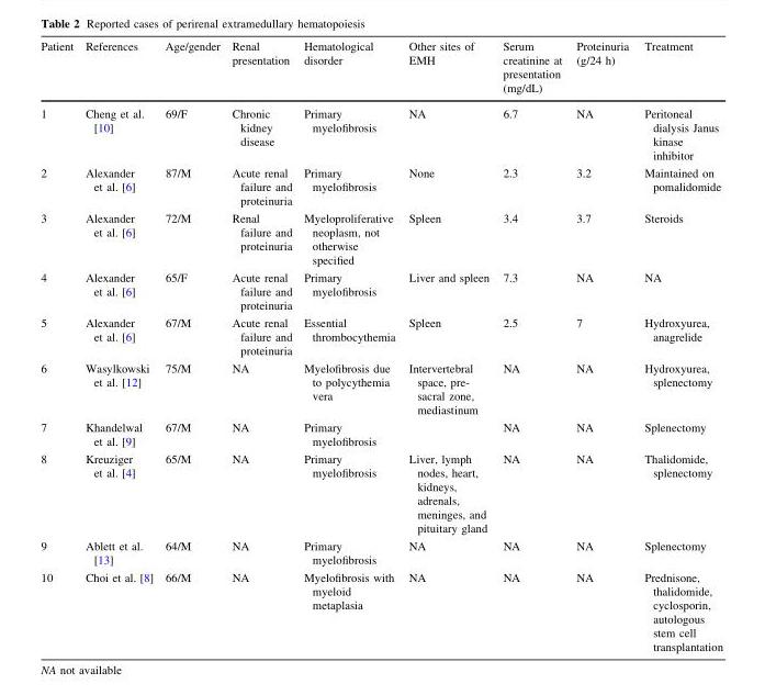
<table><thead><tr><td>Patient</td><td>References</td><td>Age/gender</td><td>Renal presentation</td><td>Hematological disorder</td><td>Other sites of EMH</td><td>Serum creatinine at presentation (mg/dL)</td><td>Proteinuria (g/24 h)</td><td>Treatment</td></tr></thead><tbody><tr><td>1</td><td>Cheng et al. [10]</td><td>69/F</td><td>Chronic kidney disease</td><td>Primary myelofibrosis</td><td>NA</td><td>6.7</td><td>NA</td><td>Peritoneal dialysis Janus kinase inhibitor</td></tr><tr><td>2</td><td>Alexander et al. [6]</td><td>87/M</td><td>Acute renal failure and proteinuria</td><td>Primary myelofibrosis</td><td>None</td><td>2.3</td><td>3.2</td><td>Maintained on pomalidomide</td></tr><tr><td>3</td><td>Alexander et al. [6]</td><td>72/M</td><td>Renal failure and proteinuria</td><td>Myeloproliferative neoplasm, not otherwise specified</td><td>Spleen</td><td>3.4</td><td>3.7</td><td>Steroids</td></tr><tr><td>4</td><td>Alexander et al. [6]</td><td>65/F</td><td>Acute renal failure and proteinuria</td><td>Primary myelofibrosis</td><td>Liver and spleen</td><td>7.3</td><td>NA</td><td>NA</td></tr><tr><td>5</td><td>Alexander et al. [6]</td><td>67/M</td><td>Acute renal failure and proteinuria</td><td>Essential thrombocythemia</td><td>Spleen</td><td>2.5</td><td>7</td><td>Hydroxyurea, anagrelide</td></tr><tr><td>6</td><td>Wasylkowski et al. [12]</td><td>75/M</td><td>NA</td><td>Myelofibrosis due to polycythemia vera</td><td>Intervertebral space, pre- sacral zone, mediastinum</td><td>NA</td><td>NA</td><td>Hydroxyurea, splenectomy</td></tr><tr><td>7</td><td>Khandelwal et al. [9]</td><td>67/M</td><td>NA</td><td>Primary myelofibrosis</td><td></td><td>NA</td><td>NA</td><td>Splenectomy</td></tr><tr><td>8</td><td>Kreuziger et al. [4]</td><td>65/M</td><td>NA</td><td>Primary myelofibrosis</td><td>Liver, lymph nodes, heart, kidneys, adrenals, meninges, and pituitary gland</td><td>NA</td><td>NA</td><td>Thalidomide, splenectomy</td></tr><tr><td>9</td><td>Ablett et al. [13]</td><td>64/M</td><td>NA</td><td>Primary myelofibrosis</td><td>NA</td><td>NA</td><td>NA</td><td>Splenectomy</td></tr><tr><td>10</td><td>Choi et al. [8]</td><td>66/M</td><td>NA</td><td>Myelofibrosis with myeloid metaplasia</td><td>NA</td><td>NA</td><td>NA</td><td>Prednisone, thalidomide, cyclosporin, autologous stem cell transplantation</td></tr></tbody></table>